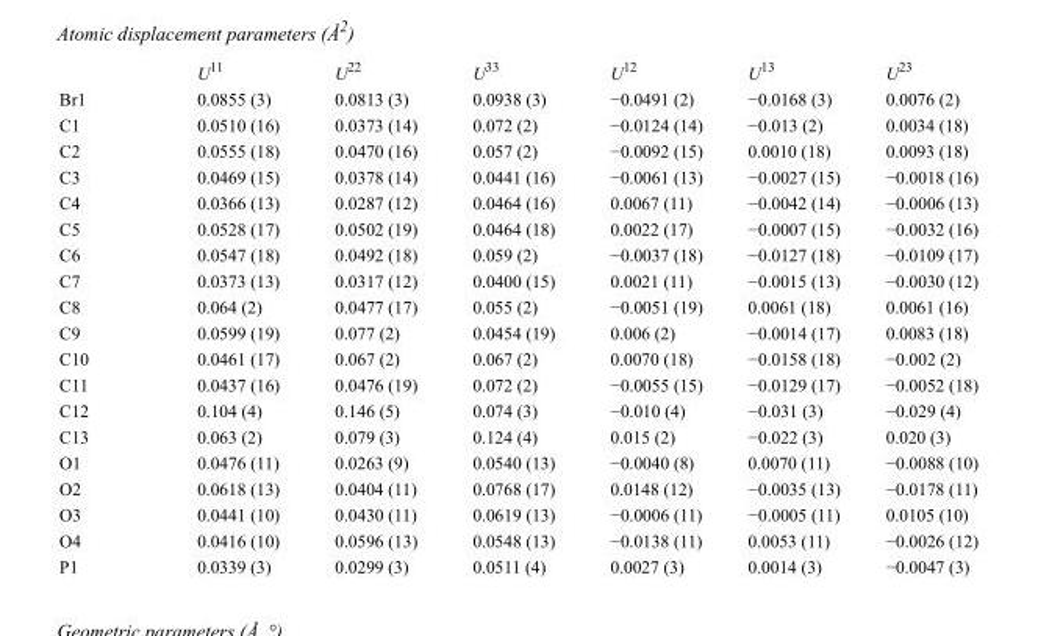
<table><thead><tr><td></td><td>U<sup>11</sup></td><td>U<sup>22</sup></td><td>U<sup>33</sup></td><td>U<sup>12</sup></td><td>U<sup>13</sup></td><td>U<sup>23</sup></td></tr></thead><tbody><tr><td>Br1</td><td>0.0855 (3)</td><td>0.0813 (3)</td><td>0.0938 (3)</td><td>−0.0491 (2)</td><td>−0.0168 (3)</td><td>0.0076 (2)</td></tr><tr><td>C1</td><td>0.0510 (16)</td><td>0.0373 (14)</td><td>0.072 (2)</td><td>−0.0124 (14)</td><td>−0.013 (2)</td><td>0.0034 (18)</td></tr><tr><td>C2</td><td>0.0555 (18)</td><td>0.0470 (16)</td><td>0.057 (2)</td><td>−0.0092 (15)</td><td>0.0010 (18)</td><td>0.0093 (18)</td></tr><tr><td>C3</td><td>0.0469 (15)</td><td>0.0378 (14)</td><td>0.0441 (16)</td><td>−0.0061 (13)</td><td>−0.0027 (15)</td><td>−0.0018 (16)</td></tr><tr><td>C4</td><td>0.0366 (13)</td><td>0.0287 (12)</td><td>0.0464 (16)</td><td>0.0067 (11)</td><td>−0.0042 (14)</td><td>−0.0006 (13)</td></tr><tr><td>C5</td><td>0.0528 (17)</td><td>0.0502 (19)</td><td>0.0464 (18)</td><td>0.0022 (17)</td><td>−0.0007 (15)</td><td>−0.0032 (16)</td></tr><tr><td>C6</td><td>0.0547 (18)</td><td>0.0492 (18)</td><td>0.059 (2)</td><td>−0.0037 (18)</td><td>−0.0127 (18)</td><td>−0.0109 (17)</td></tr><tr><td>C7</td><td>0.0373 (13)</td><td>0.0317 (12)</td><td>0.0400 (15)</td><td>0.0021 (11)</td><td>−0.0015 (13)</td><td>−0.0030 (12)</td></tr><tr><td>C8</td><td>0.064 (2)</td><td>0.0477 (17)</td><td>0.055 (2)</td><td>−0.0051 (19)</td><td>0.0061 (18)</td><td>0.0061 (16)</td></tr><tr><td>C9</td><td>0.0599 (19)</td><td>0.077 (2)</td><td>0.0454 (19)</td><td>0.006 (2)</td><td>−0.0014 (17)</td><td>0.0083 (18)</td></tr><tr><td>C10</td><td>0.0461 (17)</td><td>0.067 (2)</td><td>0.067 (2)</td><td>0.0070 (18)</td><td>−0.0158 (18)</td><td>−0.002 (2)</td></tr><tr><td>C11</td><td>0.0437 (16)</td><td>0.0476 (19)</td><td>0.072 (2)</td><td>−0.0055 (15)</td><td>−0.0129 (17)</td><td>−0.0052 (18)</td></tr><tr><td>C12</td><td>0.104 (4)</td><td>0.146 (5)</td><td>0.074 (3)</td><td>−0.010 (4)</td><td>−0.031 (3)</td><td>−0.029 (4)</td></tr><tr><td>C13</td><td>0.063 (2)</td><td>0.079 (3)</td><td>0.124 (4)</td><td>0.015 (2)</td><td>−0.022 (3)</td><td>0.020 (3)</td></tr><tr><td>O1</td><td>0.0476 (11)</td><td>0.0263 (9)</td><td>0.0540 (13)</td><td>−0.0040 (8)</td><td>0.0070 (11)</td><td>−0.0088 (10)</td></tr><tr><td>O2</td><td>0.0618 (13)</td><td>0.0404 (11)</td><td>0.0768 (17)</td><td>0.0148 (12)</td><td>−0.0035 (13)</td><td>−0.0178 (11)</td></tr><tr><td>O3</td><td>0.0441 (10)</td><td>0.0430 (11)</td><td>0.0619 (13)</td><td>−0.0006 (11)</td><td>−0.0005 (11)</td><td>0.0105 (10)</td></tr><tr><td>O4</td><td>0.0416 (10)</td><td>0.0596 (13)</td><td>0.0548 (13)</td><td>−0.0138 (11)</td><td>0.0053 (11)</td><td>−0.0026 (12)</td></tr><tr><td>P1</td><td>0.0339 (3)</td><td>0.0299 (3)</td><td>0.0511 (4)</td><td>0.0027 (3)</td><td>0.0014 (3)</td><td>−0.0047 (3)</td></tr></tbody></table>